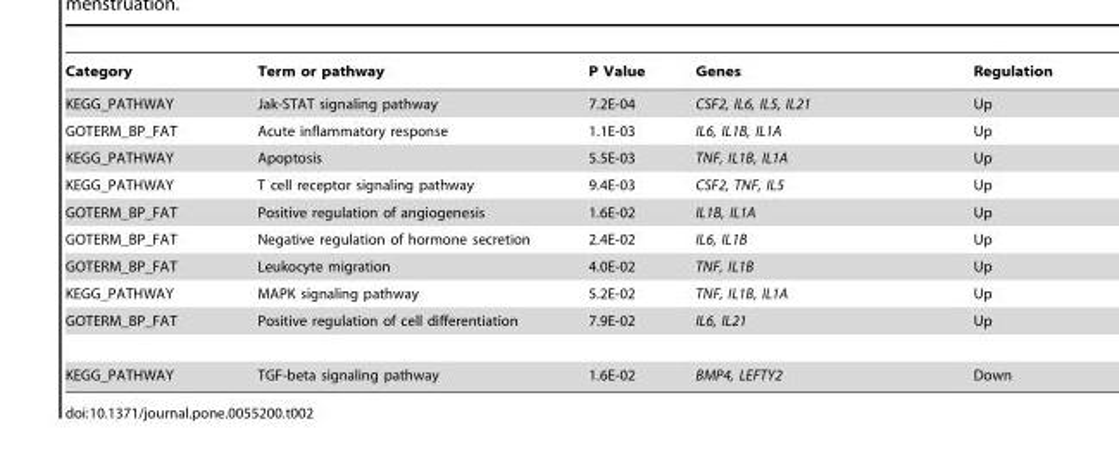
<table><thead><tr><td>Category</td><td>Term or pathway</td><td>P Value</td><td>Genes</td><td>Regulation</td></tr></thead><tbody><tr><td>KEGG_PATHWAY</td><td>Jak-STAT signaling pathway</td><td>7.2E-04</td><td>CSF2, IL6, IL5, IL21</td><td>Up</td></tr><tr><td>GOTERM_BP_FAT</td><td>Acute inflammatory response</td><td>1.1E-03</td><td>IL6, IL1B, IL1A</td><td>Up</td></tr><tr><td>KEGG_PATHWAY</td><td>Apoptosis</td><td>5.5E-03</td><td>TNF, IL1B, IL1A</td><td>Up</td></tr><tr><td>KEGG_PATHWAY</td><td>T cell receptor signaling pathway</td><td>9.4E-03</td><td>CSF2, TNF, IL5</td><td>Up</td></tr><tr><td>GOTERM_BP_FAT</td><td>Positive regulation of angiogenesis</td><td>1.6E-02</td><td>IL1B, IL1A</td><td>Up</td></tr><tr><td>GOTERM_BP_FAT</td><td>Negative regulation of hormone secretion</td><td>2.4E-02</td><td>IL6, IL1B</td><td>Up</td></tr><tr><td>GOTERM_BP_FAT</td><td>Leukocyte migration</td><td>4.0E-02</td><td>TNF, IL1B</td><td>Up</td></tr><tr><td>KEGG_PATHWAY</td><td>MAPK signaling pathway</td><td>5.2E-02</td><td>TNF, IL1B, IL1A</td><td>Up</td></tr><tr><td>GOTERM_BP_FAT</td><td>Positive regulation of cell differentiation</td><td>7.9E-02</td><td>IL6, IL21</td><td>Up</td></tr><tr><td>KEGG_PATHWAY</td><td>TGF-beta signaling pathway</td><td>1.6E-02</td><td>BMP4, LEFTY2</td><td>Down</td></tr></tbody></table>